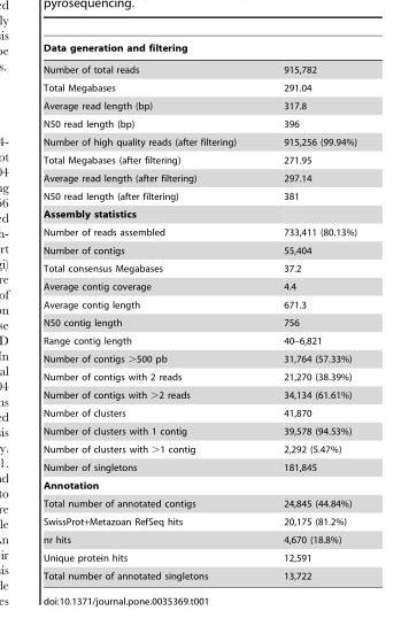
<table><thead><tr><td colspan="2">Data generation and filtering</td></tr><tr><td>Number of total reads</td><td>915,782</td></tr></thead><tbody><tr><td>Total Megabases</td><td>291.04</td></tr><tr><td>Average read length (bp)</td><td>317.8</td></tr><tr><td>N50 read length (bp)</td><td>396</td></tr><tr><td>Number of high quality reads (after filtering)</td><td>915,256 (99.94%)</td></tr><tr><td>Total Megabases (after filtering)</td><td>271.95</td></tr><tr><td>Average read length (after filtering)</td><td>297.14</td></tr><tr><td>N50 read length (after filtering)</td><td>381</td></tr><tr><td colspan="2">Assembly statistics</td></tr><tr><td>Number of reads assembled</td><td>733,411 (80.13%)</td></tr><tr><td>Number of contigs</td><td>55,404</td></tr><tr><td>Total consensus Megabases</td><td>37.2</td></tr><tr><td>Average contig coverage</td><td>4.4</td></tr><tr><td>Average contig length</td><td>671.3</td></tr><tr><td>N50 contig length</td><td>756</td></tr><tr><td>Range contig length</td><td>40–6,821</td></tr><tr><td>Number of contigs &gt;500 pb</td><td>31,764 (57.33%)</td></tr><tr><td>Number of contigs with 2 reads</td><td>21,270 (38.39%)</td></tr><tr><td>Number of contigs with &gt;2 reads</td><td>34,134 (61.61%)</td></tr><tr><td>Number of clusters</td><td>41,870</td></tr><tr><td>Number of clusters with 1 contig</td><td>39,578 (94.53%)</td></tr><tr><td>Number of clusters with &gt;1 contig</td><td>2,292 (5.47%)</td></tr><tr><td>Number of singletons</td><td>181,845</td></tr><tr><td colspan="2">Annotation</td></tr><tr><td>Total number of annotated contigs</td><td>24,845 (44.84%)</td></tr><tr><td>SwissProt+Metazoan RefSeq hits</td><td>20,175 (81.2%)</td></tr><tr><td>nr hits</td><td>4,670 (18.8%)</td></tr><tr><td>Unique protein hits</td><td>12,591</td></tr><tr><td>Total number of annotated singletons</td><td>13,722</td></tr></tbody></table>